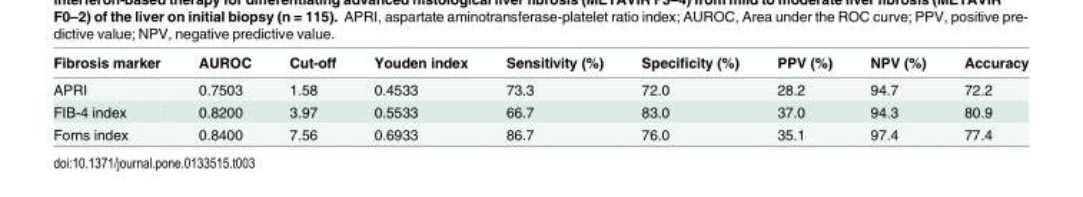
<table><thead><tr><td>Fibrosis marker</td><td>AUROC</td><td>Cut-off</td><td>Youden index</td><td>Sensitivity (%)</td><td>Specificity (%)</td><td>PPV (%)</td><td>NPV (%)</td><td>Accuracy</td></tr></thead><tbody><tr><td>APRI</td><td>0.7503</td><td>1.58</td><td>0.4533</td><td>73.3</td><td>72.0</td><td>28.2</td><td>94.7</td><td>72.2</td></tr><tr><td>FIB-4 index</td><td>0.8200</td><td>3.97</td><td>0.5533</td><td>66.7</td><td>83.0</td><td>37.0</td><td>94.3</td><td>80.9</td></tr><tr><td>Forns index</td><td>0.8400</td><td>7.56</td><td>0.6933</td><td>86.7</td><td>76.0</td><td>35.1</td><td>97.4</td><td>77.4</td></tr></tbody></table>